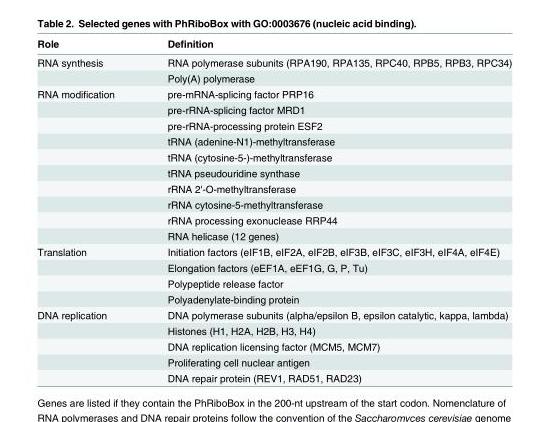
<table><thead><tr><td>Role</td><td>Definition</td></tr></thead><tbody><tr><td rowspan="2">RNA synthesis</td><td>RNA polymerase subunits (RPA190, RPA135, RPC40, RPB5, RPB3, RPC34)</td></tr><tr><td>Poly(A) polymerase</td></tr><tr><td rowspan="10">RNA modification</td><td>pre-mRNA-splicing factor PRP16</td></tr><tr><td>pre-rRNA-splicing factor MRD1</td></tr><tr><td>pre-rRNA-processing protein ESF2</td></tr><tr><td>tRNA (adenine-N1)-methyltransferase</td></tr><tr><td>tRNA (cytosine-5-)-methyltransferase</td></tr><tr><td>tRNA pseudouridine synthase</td></tr><tr><td>rRNA 2&#x27;-O-methyltransferase</td></tr><tr><td>rRNA cytosine-5-methyltransferase</td></tr><tr><td>rRNA processing exonuclease RRP44</td></tr><tr><td>RNA helicase (12 genes)</td></tr><tr><td rowspan="4">Translation</td><td>Initiation factors (eIF1B, eIF2A, eIF2B, eIF3B, eIF3C, eIF3H, eIF4A, eIF4E)</td></tr><tr><td>Elongation factors (eEF1A, eEF1G, G, P, Tu)</td></tr><tr><td>Polypeptide release factor</td></tr><tr><td>Polyadenylate-binding protein</td></tr><tr><td rowspan="5">DNA replication</td><td>DNA polymerase subunits (alpha/epsilon B, epsilon catalytic, kappa, lambda)</td></tr><tr><td>Histones (H1, H2A, H2B, H3, H4)</td></tr><tr><td>DNA replication licensing factor (MCM5, MCM7)</td></tr><tr><td>Proliferating cell nuclear antigen</td></tr><tr><td>DNA repair protein (REV1, RAD51, RAD23)</td></tr></tbody></table>